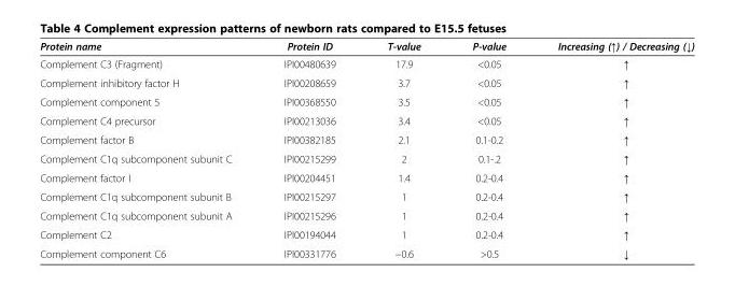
<table><thead><tr><td>Protein name</td><td>Protein ID</td><td>T-value</td><td>P-value</td><td>Increasing (↑) / Decreasing (↓)</td></tr></thead><tbody><tr><td>Complement C3 (Fragment)</td><td>IPI00480639</td><td>17.9</td><td>&lt;0.05</td><td>↑</td></tr><tr><td>Complement inhibitory factor H</td><td>IPI00208659</td><td>3.7</td><td>&lt;0.05</td><td>↑</td></tr><tr><td>Complement component 5</td><td>IPI00368550</td><td>3.5</td><td>&lt;0.05</td><td>↑</td></tr><tr><td>Complement C4 precursor</td><td>IPI00213036</td><td>3.4</td><td>&lt;0.05</td><td>↑</td></tr><tr><td>Complement factor B</td><td>IPI00382185</td><td>2.1</td><td>0.1-0.2</td><td>↑</td></tr><tr><td>Complement C1q subcomponent subunit C</td><td>IPI00215299</td><td>2</td><td>0.1-.2</td><td>↑</td></tr><tr><td>Complement factor I</td><td>IPI00204451</td><td>1.4</td><td>0.2-0.4</td><td>↑</td></tr><tr><td>Complement C1q subcomponent subunit B</td><td>IPI00215297</td><td>1</td><td>0.2-0.4</td><td>↑</td></tr><tr><td>Complement C1q subcomponent subunit A</td><td>IPI00215296</td><td>1</td><td>0.2-0.4</td><td>↑</td></tr><tr><td>Complement C2</td><td>IPI00194044</td><td>1</td><td>0.2-0.4</td><td>↑</td></tr><tr><td>Complement component C6</td><td>IPI00331776</td><td>−0.6</td><td>&gt;0.5</td><td>↓</td></tr></tbody></table>